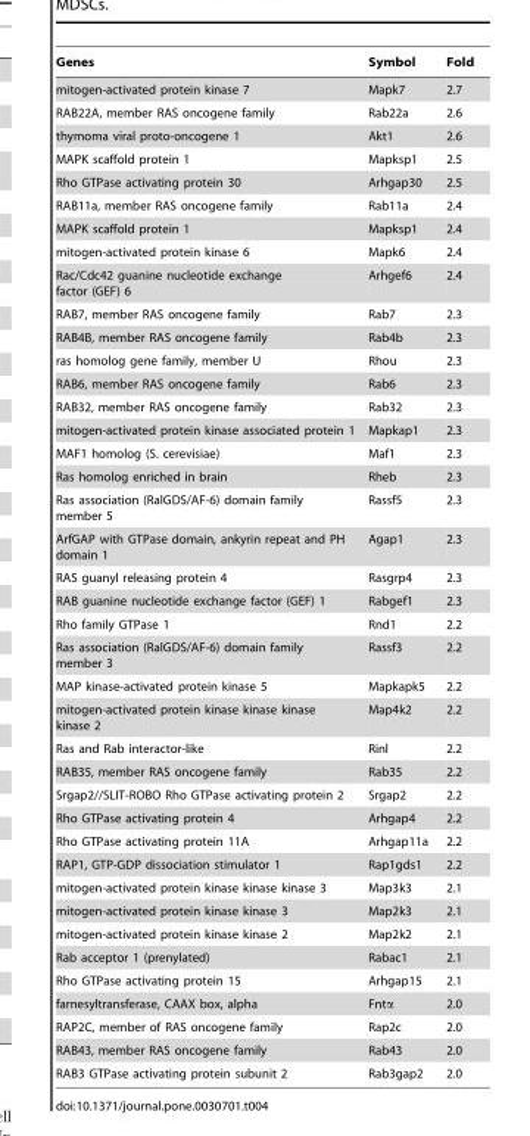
<table><thead><tr><td>Genes</td><td>Symbol</td><td>Fold</td></tr></thead><tbody><tr><td>mitogen-activated protein kinase 7</td><td>Mapk7</td><td>2.7</td></tr><tr><td>RAB22A, member RAS oncogene family</td><td>Rab22a</td><td>2.6</td></tr><tr><td>thymoma viral proto-oncogene 1</td><td>Akt1</td><td>2.6</td></tr><tr><td>MAPK scaffold protein 1</td><td>Mapksp1</td><td>2.5</td></tr><tr><td>Rho GTPase activating protein 30</td><td>Arhgap30</td><td>2.5</td></tr><tr><td>RAB11a, member RAS oncogene family</td><td>Rab11a</td><td>2.4</td></tr><tr><td>MAPK scaffold protein 1</td><td>Mapksp1</td><td>2.4</td></tr><tr><td>mitogen-activated protein kinase 6</td><td>Mapk6</td><td>2.4</td></tr><tr><td>Rac/Cdc42 guanine nucleotide exchange factor (GEF) 6</td><td>Arhgef6</td><td>2.4</td></tr><tr><td>RAB7, member RAS oncogene family</td><td>Rab7</td><td>2.3</td></tr><tr><td>RAB4B, member RAS oncogene family</td><td>Rab4b</td><td>2.3</td></tr><tr><td>ras homolog gene family, member U</td><td>Rhou</td><td>2.3</td></tr><tr><td>RAB6, member RAS oncogene family</td><td>Rab6</td><td>2.3</td></tr><tr><td>RAB32, member RAS oncogene family</td><td>Rab32</td><td>2.3</td></tr><tr><td>mitogen-activated protein kinase associated protein 1</td><td>Mapkap1</td><td>2.3</td></tr><tr><td>MAF1 homolog (S. cerevisiae)</td><td>Maf1</td><td>2.3</td></tr><tr><td>Ras homolog enriched in brain</td><td>Rheb</td><td>2.3</td></tr><tr><td>Ras association (RalGDS/AF-6) domain family member 5</td><td>Rassf5</td><td>2.3</td></tr><tr><td>ArfGAP with GTPase domain, ankyrin repeat and PH domain 1</td><td>Agap1</td><td>2.3</td></tr><tr><td>RAS guanyl releasing protein 4</td><td>Rasgrp4</td><td>2.3</td></tr><tr><td>RAB guanine nucleotide exchange factor (GEF) 1</td><td>Rabgef1</td><td>2.3</td></tr><tr><td>Rho family GTPase 1</td><td>Rnd1</td><td>2.2</td></tr><tr><td>Ras association (RalGDS/AF-6) domain family member 3</td><td>Rassf3</td><td>2.2</td></tr><tr><td>MAP kinase-activated protein kinase 5</td><td>Mapkapk5</td><td>2.2</td></tr><tr><td>mitogen-activated protein kinase kinase kinase kinase 2</td><td>Map4k2</td><td>2.2</td></tr><tr><td>Ras and Rab interactor-like</td><td>Rinl</td><td>2.2</td></tr><tr><td>RAB35, member RAS oncogene family</td><td>Rab35</td><td>2.2</td></tr><tr><td>Srgap2//SLIT-ROBO Rho GTPase activating protein 2</td><td>Srgap2</td><td>2.2</td></tr><tr><td>Rho GTPase activating protein 4</td><td>Arhgap4</td><td>2.2</td></tr><tr><td>Rho GTPase activating protein 11A</td><td>Arhgap11a</td><td>2.2</td></tr><tr><td>RAP1, GTP-GDP dissociation stimulator 1</td><td>Rap1gds1</td><td>2.2</td></tr><tr><td>mitogen-activated protein kinase kinase kinase 3</td><td>Map3k3</td><td>2.1</td></tr><tr><td>mitogen-activated protein kinase kinase 3</td><td>Map2k3</td><td>2.1</td></tr><tr><td>mitogen-activated protein kinase kinase 2</td><td>Map2k2</td><td>2.1</td></tr><tr><td>Rab acceptor 1 (prenylated)</td><td>Rabac1</td><td>2.1</td></tr><tr><td>Rho GTPase activating protein 15</td><td>Arhgap15</td><td>2.1</td></tr><tr><td>farnesyltransferase, CAAX box, alpha</td><td>Fntα</td><td>2.0</td></tr><tr><td>RAP2C, member of RAS oncogene family</td><td>Rap2c</td><td>2.0</td></tr><tr><td>RAB43, member RAS oncogene family</td><td>Rab43</td><td>2.0</td></tr><tr><td>RAB3 GTPase activating protein subunit 2</td><td>Rab3gap2</td><td>2.0</td></tr></tbody></table>